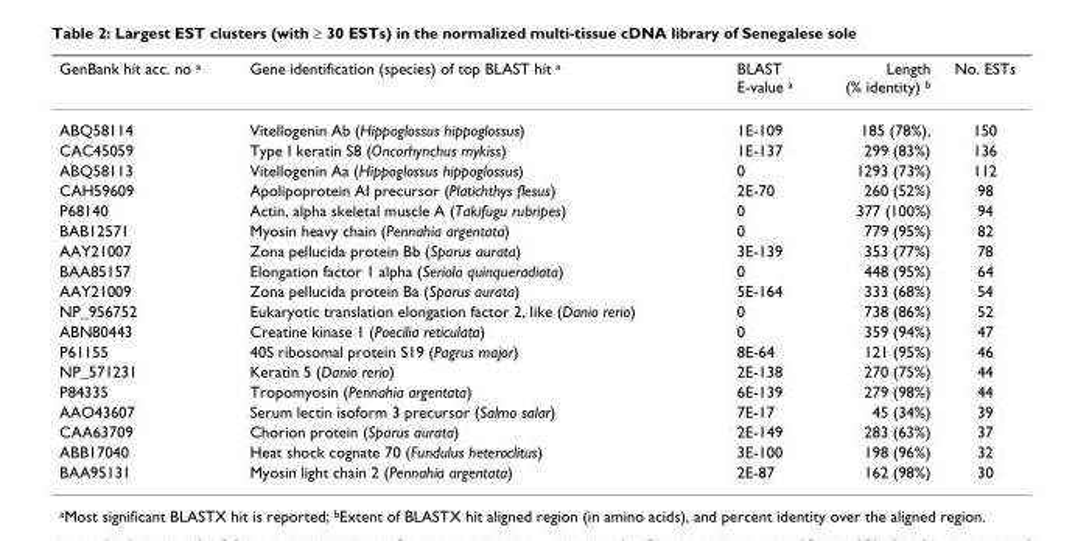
<table><thead><tr><td>GenBank hit acc. no <sup>a</sup></td><td>Gene identification (species) of top BLAST hit <sup>a</sup></td><td>BLAST E-value <sup>a</sup></td><td>Length (% identity) <sup>b</sup></td><td>No. ESTs</td></tr></thead><tbody><tr><td>ABQ58114</td><td>Vitellogenin Ab (Hippoglossus hippoglossus)</td><td>1E-109</td><td>185 (78%),</td><td>150</td></tr><tr><td>CAC45059</td><td>Type I keratin S8 (Oncorhynchus mykiss)</td><td>1E-137</td><td>299 (83%)</td><td>136</td></tr><tr><td>ABQ58113</td><td>Vitellogenin Aa (Hippoglossus hippoglossus)</td><td>0</td><td>1293 (73%)</td><td>112</td></tr><tr><td>CAH59609</td><td>Apolipoprotein AI precursor (Platichthys flesus)</td><td>2E-70</td><td>260 (52%)</td><td>98</td></tr><tr><td>P68140</td><td>Actin, alpha skeletal muscle A (Takifugu rubripes)</td><td>0</td><td>377 (100%)</td><td>94</td></tr><tr><td>BAB12571</td><td>Myosin heavy chain (Pennahia argentata)</td><td>0</td><td>779 (95%)</td><td>82</td></tr><tr><td>AAY21007</td><td>Zona pellucida protein Bb (Sparus aurata)</td><td>3E-139</td><td>353 (77%)</td><td>78</td></tr><tr><td>BAA85157</td><td>Elongation factor 1 alpha (Seriola quinqueradiata)</td><td>0</td><td>448 (95%)</td><td>64</td></tr><tr><td>AAY21009</td><td>Zona pellucida protein Ba (Sparus aurata)</td><td>5E-164</td><td>333 (68%)</td><td>54</td></tr><tr><td>NP_956752</td><td>Eukaryotic translation elongation factor 2, like (Danio rerio)</td><td>0</td><td>738 (86%)</td><td>52</td></tr><tr><td>ABN80443</td><td>Creatine kinase 1 (Poecilia reticulata)</td><td>0</td><td>359 (94%)</td><td>47</td></tr><tr><td>P61155</td><td>40S ribosomal protein S19 (Pagrus major)</td><td>8E-64</td><td>121 (95%)</td><td>46</td></tr><tr><td>NP_571231</td><td>Keratin 5 (Danio rerio)</td><td>2E-138</td><td>270 (75%)</td><td>44</td></tr><tr><td>P84335</td><td>Tropomyosin (Pennahia argentata)</td><td>6E-139</td><td>279 (98%)</td><td>44</td></tr><tr><td>AAO43607</td><td>Serum lectin isoform 3 precursor (Salmo salar)</td><td>7E-17</td><td>45 (34%)</td><td>39</td></tr><tr><td>CAA63709</td><td>Chorion protein (Sparus aurata)</td><td>2E-149</td><td>283 (63%)</td><td>37</td></tr><tr><td>ABB17040</td><td>Heat shock cognate 70 (Fundulus heteroclitus)</td><td>3E-100</td><td>198 (96%)</td><td>32</td></tr><tr><td>BAA95131</td><td>Myosin light chain 2 (Pennahia argentata)</td><td>2E-87</td><td>162 (98%)</td><td>30</td></tr></tbody></table>